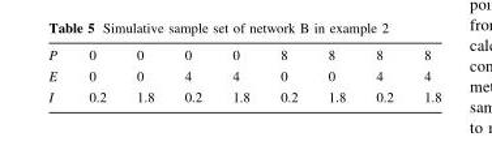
<table><tbody><tr><td>P</td><td>0</td><td>0</td><td>0</td><td>0</td><td>8</td><td>8</td><td>8</td><td>8</td></tr><tr><td>E</td><td>0</td><td>0</td><td>4</td><td>4</td><td>0</td><td>0</td><td>4</td><td>4</td></tr><tr><td>I</td><td>0.2</td><td>1.8</td><td>0.2</td><td>1.8</td><td>0.2</td><td>1.8</td><td>0.2</td><td>1.8</td></tr></tbody></table>